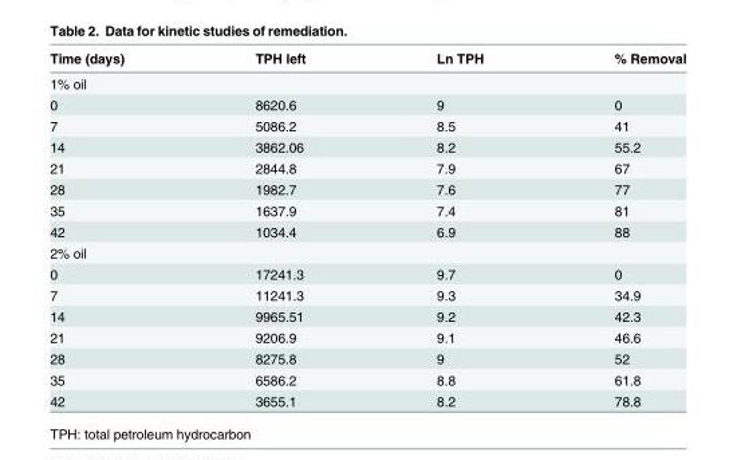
<table><thead><tr><td>Time (days)</td><td>TPH left</td><td>Ln TPH</td><td>% Removal</td></tr></thead><tbody><tr><td colspan="4">1% oil</td></tr><tr><td>0</td><td>8620.6</td><td>9</td><td>0</td></tr><tr><td>7</td><td>5086.2</td><td>8.5</td><td>41</td></tr><tr><td>14</td><td>3862.06</td><td>8.2</td><td>55.2</td></tr><tr><td>21</td><td>2844.8</td><td>7.9</td><td>67</td></tr><tr><td>28</td><td>1982.7</td><td>7.6</td><td>77</td></tr><tr><td>35</td><td>1637.9</td><td>7.4</td><td>81</td></tr><tr><td>42</td><td>1034.4</td><td>6.9</td><td>88</td></tr><tr><td colspan="4">2% oil</td></tr><tr><td>0</td><td>17241.3</td><td>9.7</td><td>0</td></tr><tr><td>7</td><td>11241.3</td><td>9.3</td><td>34.9</td></tr><tr><td>14</td><td>9965.51</td><td>9.2</td><td>42.3</td></tr><tr><td>21</td><td>9206.9</td><td>9.1</td><td>46.6</td></tr><tr><td>28</td><td>8275.8</td><td>9</td><td>52</td></tr><tr><td>35</td><td>6586.2</td><td>8.8</td><td>61.8</td></tr><tr><td>42</td><td>3655.1</td><td>8.2</td><td>78.8</td></tr></tbody></table>